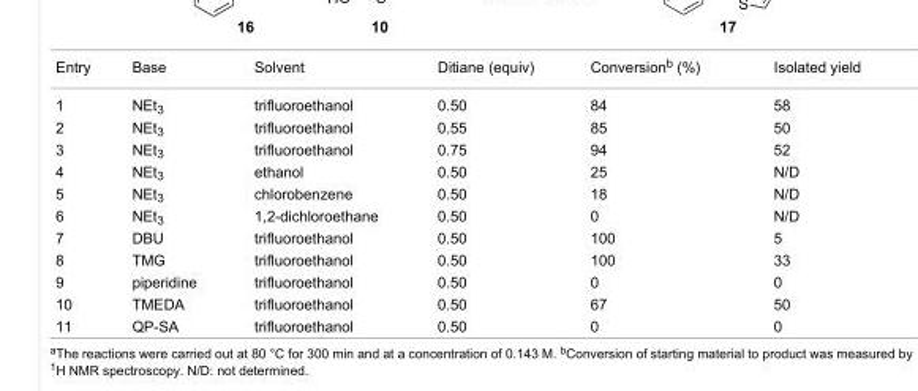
<table><tbody><tr><td>Entry</td><td>Base</td><td>Solvent</td><td>Ditiane (equiv)</td><td>Conversion<sup>b</sup> (%)</td><td>Isolated yield</td></tr><tr><td>1</td><td>NEt<sub>3</sub></td><td>trifluoroethanol</td><td>0.50</td><td>84</td><td>58</td></tr><tr><td>2</td><td>NEt<sub>3</sub></td><td>trifluoroethanol</td><td>0.55</td><td>85</td><td>50</td></tr><tr><td>3</td><td>NEt<sub>3</sub></td><td>trifluoroethanol</td><td>0.75</td><td>94</td><td>52</td></tr><tr><td>4</td><td>NEt<sub>3</sub></td><td>ethanol</td><td>0.50</td><td>25</td><td>N/D</td></tr><tr><td>5</td><td>NEt<sub>3</sub></td><td>chlorobenzene</td><td>0.50</td><td>18</td><td>N/D</td></tr><tr><td>6</td><td>NEt<sub>3</sub></td><td>1,2-dichloroethane</td><td>0.50</td><td>0</td><td>N/D</td></tr><tr><td>7</td><td>DBU</td><td>trifluoroethanol</td><td>0.50</td><td>100</td><td>5</td></tr><tr><td>8</td><td>TMG</td><td>trifluoroethanol</td><td>0.50</td><td>100</td><td>33</td></tr><tr><td>9</td><td>piperidine</td><td>trifluoroethanol</td><td>0.50</td><td>0</td><td>0</td></tr><tr><td>10</td><td>TMEDA</td><td>trifluoroethanol</td><td>0.50</td><td>67</td><td>50</td></tr><tr><td>11</td><td>QP-SA</td><td>trifluoroethanol</td><td>0.50</td><td>0</td><td>0</td></tr></tbody></table>